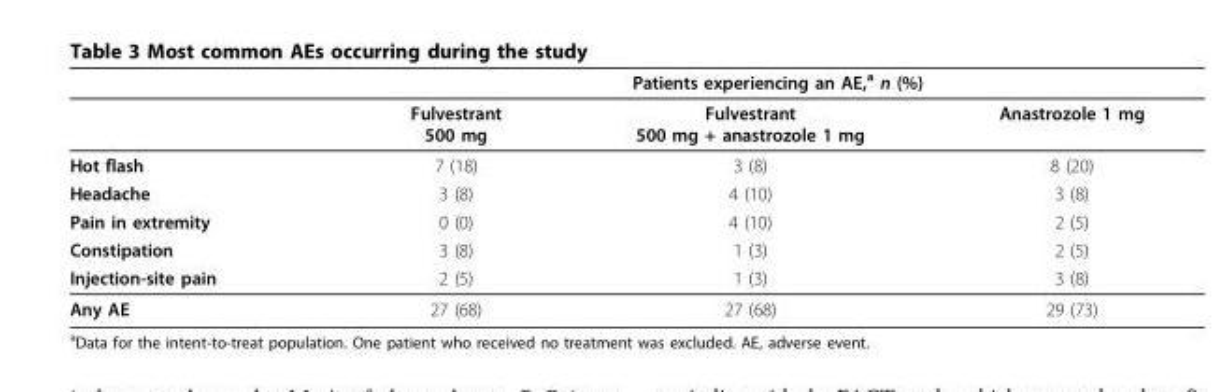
<table><thead><tr><td rowspan="2"></td><td colspan="3">Patients experiencing an AE,<sup>a</sup> n (%)</td></tr><tr><td>Fulvestrant 500 mg</td><td>Fulvestrant 500 mg + anastrozole 1 mg</td><td>Anastrozole 1 mg</td></tr></thead><tbody><tr><td>Hot flash</td><td>7 (18)</td><td>3 (8)</td><td>8 (20)</td></tr><tr><td>Headache</td><td>3 (8)</td><td>4 (10)</td><td>3 (8)</td></tr><tr><td>Pain in extremity</td><td>0 (0)</td><td>4 (10)</td><td>2 (5)</td></tr><tr><td>Constipation</td><td>3 (8)</td><td>1 (3)</td><td>2 (5)</td></tr><tr><td>Injection-site pain</td><td>2 (5)</td><td>1 (3)</td><td>3 (8)</td></tr><tr><td>Any AE</td><td>27 (68)</td><td>27 (68)</td><td>29 (73)</td></tr></tbody></table>